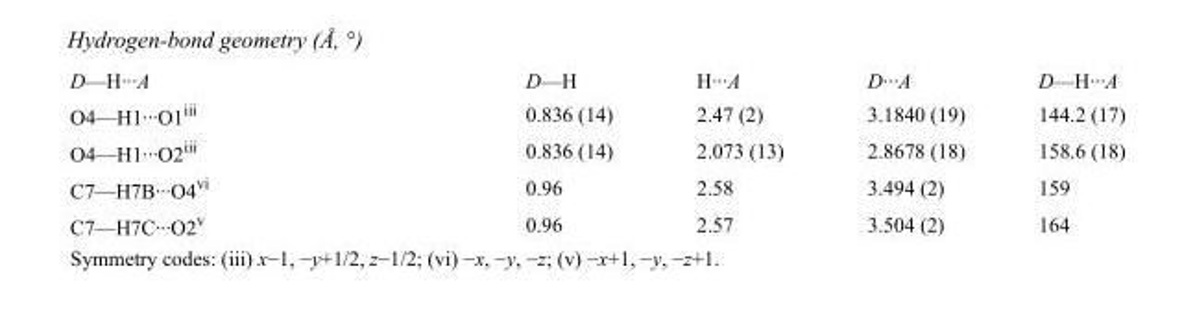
<table><tbody><tr><td>D—H···A</td><td>D—H</td><td>H···A</td><td>D···A</td><td>D—H···A</td></tr><tr><td>O4—H1···O1<sup>iii</sup></td><td>0.836 (14)</td><td>2.47 (2)</td><td>3.1840 (19)</td><td>144.2 (17)</td></tr><tr><td>O4—H1···O2<sup>iii</sup></td><td>0.836 (14)</td><td>2.073 (13)</td><td>2.8678 (18)</td><td>158.6 (18)</td></tr><tr><td>C7—H7B···O4<sup>vi</sup></td><td>0.96</td><td>2.58</td><td>3.494 (2)</td><td>159</td></tr><tr><td>C7—H7C···O2<sup>v</sup></td><td>0.96</td><td>2.57</td><td>3.504 (2)</td><td>164</td></tr></tbody></table>